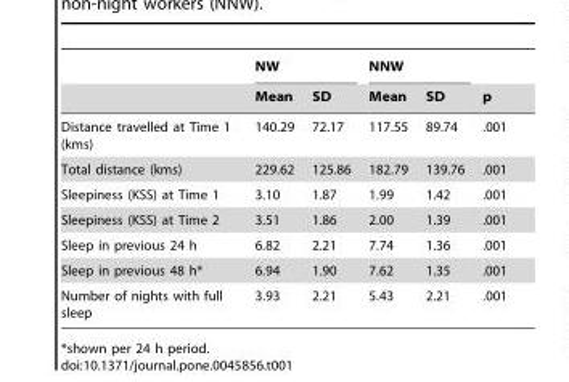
<table><thead><tr><td rowspan="2"></td><td colspan="2">NW</td><td colspan="2">NNW</td><td rowspan="2">p</td></tr><tr><td>Mean</td><td>SD</td><td>Mean</td><td>SD</td></tr></thead><tbody><tr><td>Distance travelled at Time 1 (kms)</td><td>140.29</td><td>72.17</td><td>117.55</td><td>89.74</td><td>.001</td></tr><tr><td>Total distance (kms)</td><td>229.62</td><td>125.86</td><td>182.79</td><td>139.76</td><td>.001</td></tr><tr><td>Sleepiness (KSS) at Time 1</td><td>3.10</td><td>1.87</td><td>1.99</td><td>1.42</td><td>.001</td></tr><tr><td>Sleepiness (KSS) at Time 2</td><td>3.51</td><td>1.86</td><td>2.00</td><td>1.39</td><td>.001</td></tr><tr><td>Sleep in previous 24 h</td><td>6.82</td><td>2.21</td><td>7.74</td><td>1.36</td><td>.001</td></tr><tr><td>Sleep in previous 48 h*</td><td>6.94</td><td>1.90</td><td>7.62</td><td>1.35</td><td>.001</td></tr><tr><td>Number of nights with full sleep</td><td>3.93</td><td>2.21</td><td>5.43</td><td>2.21</td><td>.001</td></tr></tbody></table>